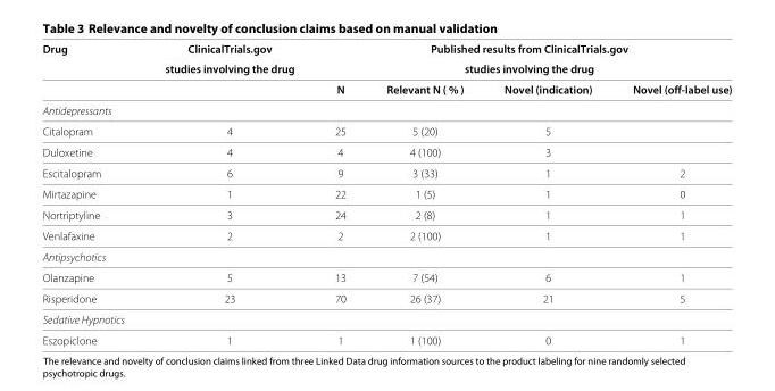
<table><thead><tr><td rowspan="3">Drug</td><td rowspan="3">ClinicalTrials.gov studies involving the drug</td><td rowspan="2" colspan="4">Published results from ClinicalTrials.gov studies involving the drug</td></tr><tr></tr><tr><td>N</td><td>Relevant N ( % )</td><td>Novel (indication)</td><td>Novel (off-label use)</td></tr></thead><tbody><tr><td colspan="6">Antidepressants</td></tr><tr><td>Citalopram</td><td>4</td><td>25</td><td>5 (20)</td><td>5</td><td></td></tr><tr><td>Duloxetine</td><td>4</td><td>4</td><td>4 (100)</td><td>3</td><td></td></tr><tr><td>Escitalopram</td><td>6</td><td>9</td><td>3 (33)</td><td>1</td><td>2</td></tr><tr><td>Mirtazapine</td><td>1</td><td>22</td><td>1 (5)</td><td>1</td><td>0</td></tr><tr><td>Nortriptyline</td><td>3</td><td>24</td><td>2 (8)</td><td>1</td><td>1</td></tr><tr><td>Venlafaxine</td><td>2</td><td>2</td><td>2 (100)</td><td>1</td><td>1</td></tr><tr><td colspan="6">Antipsychotics</td></tr><tr><td>Olanzapine</td><td>5</td><td>13</td><td>7 (54)</td><td>6</td><td>1</td></tr><tr><td>Risperidone</td><td>23</td><td>70</td><td>26 (37)</td><td>21</td><td>5</td></tr><tr><td colspan="6">Sedative Hypnotics</td></tr><tr><td>Eszopiclone</td><td>1</td><td>1</td><td>1 (100)</td><td>0</td><td>1</td></tr></tbody></table>